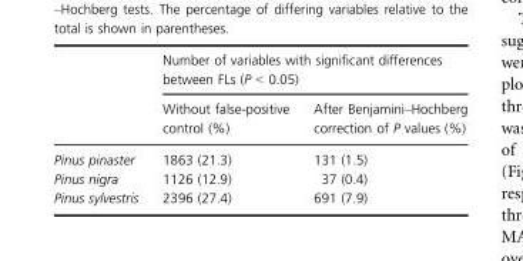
<table><thead><tr><td rowspan="2"></td><td colspan="2">Number of variables with significant differences between FLs (P &lt; 0.05)</td></tr><tr><td>Without false-positive control (%)</td><td>After Benjamini–Hochberg correction of P values (%)</td></tr></thead><tbody><tr><td>Pinus pinaster</td><td>1863 (21.3)</td><td>131 (1.5)</td></tr><tr><td>Pinus nigra</td><td>1126 (12.9)</td><td>37 (0.4)</td></tr><tr><td>Pinus sylvestris</td><td>2396 (27.4)</td><td>691 (7.9)</td></tr></tbody></table>